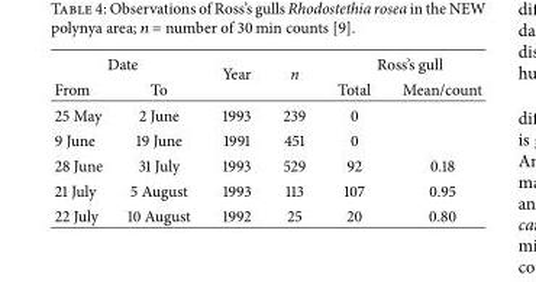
<table><thead><tr><td colspan="2">Date</td><td rowspan="2">Year</td><td rowspan="2">n</td><td colspan="2">Ross’s gull</td></tr><tr><td>From</td><td>To</td><td>Total</td><td>Mean/count</td></tr></thead><tbody><tr><td>25 May</td><td>2 June</td><td>1993</td><td>239</td><td>0</td><td></td></tr><tr><td>9 June</td><td>19 June</td><td>1991</td><td>451</td><td>0</td><td></td></tr><tr><td>28 June</td><td>31 July</td><td>1993</td><td>529</td><td>92</td><td>0.18</td></tr><tr><td>21 July</td><td>5 August</td><td>1993</td><td>113</td><td>107</td><td>0.95</td></tr><tr><td>22 July</td><td>10 August</td><td>1992</td><td>25</td><td>20</td><td>0.80</td></tr></tbody></table>